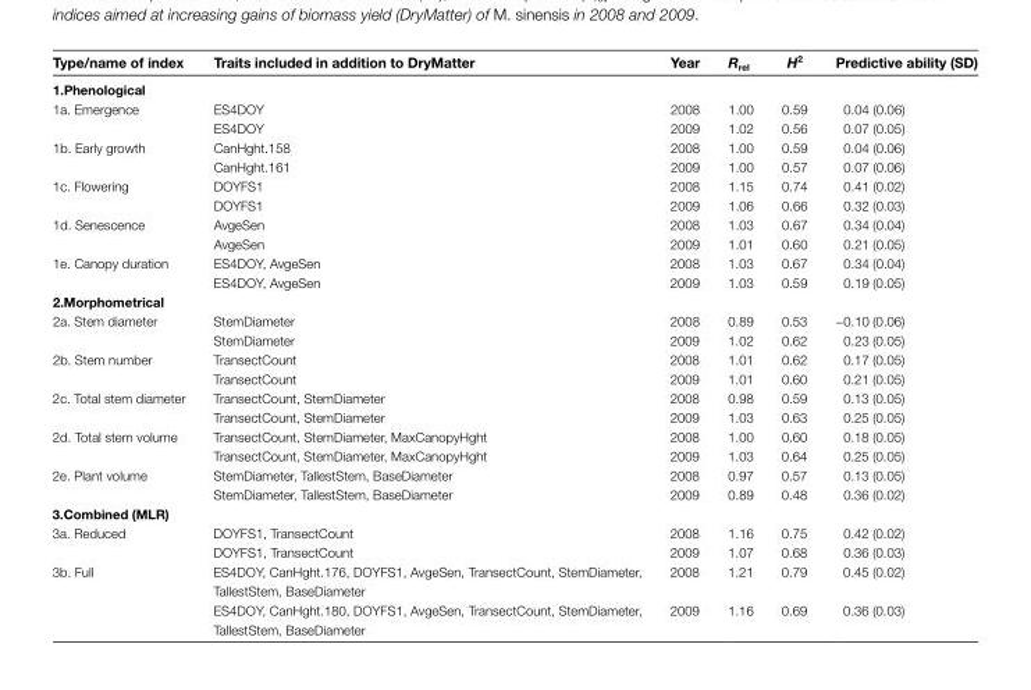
<table><thead><tr><td>Type/name of index</td><td>Traits included in addition to DryMatter</td><td>Year</td><td>R<sub>rel</sub></td><td>H<sup>2</sup></td><td>Predictive ability (SD)</td></tr></thead><tbody><tr><td colspan="6">1.Phenological</td></tr><tr><td rowspan="2">1a. Emergence</td><td>ES4DOY</td><td>2008</td><td>1.00</td><td>0.59</td><td>0.04 (0.06)</td></tr><tr><td>ES4DOY</td><td>2009</td><td>1.02</td><td>0.56</td><td>0.07 (0.05)</td></tr><tr><td rowspan="2">1b. Early growth</td><td>CanHght.158</td><td>2008</td><td>1.00</td><td>0.59</td><td>0.04 (0.06)</td></tr><tr><td>CanHght.161</td><td>2009</td><td>1.00</td><td>0.57</td><td>0.07 (0.06)</td></tr><tr><td rowspan="2">1c. Flowering</td><td>DOYFS1</td><td>2008</td><td>1.15</td><td>0.74</td><td>0.41 (0.02)</td></tr><tr><td>DOYFS1</td><td>2009</td><td>1.06</td><td>0.66</td><td>0.32 (0.03)</td></tr><tr><td rowspan="2">1d. Senescence</td><td>AvgeSen</td><td>2008</td><td>1.03</td><td>0.67</td><td>0.34 (0.04)</td></tr><tr><td>AvgeSen</td><td>2009</td><td>1.01</td><td>0.60</td><td>0.21 (0.05)</td></tr><tr><td rowspan="2">1e. Canopy duration</td><td>ES4DOY, AvgeSen</td><td>2008</td><td>1.03</td><td>0.67</td><td>0.34 (0.04)</td></tr><tr><td>ES4DOY, AvgeSen</td><td>2009</td><td>1.03</td><td>0.59</td><td>0.19 (0.05)</td></tr><tr><td colspan="6">2.Morphometrical</td></tr><tr><td rowspan="2">2a. Stem diameter</td><td>StemDiameter</td><td>2008</td><td>0.89</td><td>0.53</td><td>−0.10 (0.06)</td></tr><tr><td>StemDiameter</td><td>2009</td><td>1.02</td><td>0.62</td><td>0.23 (0.05)</td></tr><tr><td rowspan="2">2b. Stem number</td><td>TransectCount</td><td>2008</td><td>1.01</td><td>0.62</td><td>0.17 (0.05)</td></tr><tr><td>TransectCount</td><td>2009</td><td>1.01</td><td>0.60</td><td>0.21 (0.05)</td></tr><tr><td rowspan="2">2c. Total stem diameter</td><td>TransectCount, StemDiameter</td><td>2008</td><td>0.98</td><td>0.59</td><td>0.13 (0.05)</td></tr><tr><td>TransectCount, StemDiameter</td><td>2009</td><td>1.03</td><td>0.63</td><td>0.25 (0.05)</td></tr><tr><td rowspan="2">2d. Total stem volume</td><td>TransectCount, StemDiameter, MaxCanopyHght</td><td>2008</td><td>1.00</td><td>0.60</td><td>0.18 (0.05)</td></tr><tr><td>TransectCount, StemDiameter, MaxCanopyHght</td><td>2009</td><td>1.03</td><td>0.64</td><td>0.25 (0.05)</td></tr><tr><td rowspan="2">2e. Plant volume</td><td>StemDiameter, TallestStem, BaseDiameter</td><td>2008</td><td>0.97</td><td>0.57</td><td>0.13 (0.05)</td></tr><tr><td>StemDiameter, TallestStem, BaseDiameter</td><td>2009</td><td>0.89</td><td>0.48</td><td>0.36 (0.02)</td></tr><tr><td colspan="6">3.Combined (MLR)</td></tr><tr><td rowspan="2">3a. Reduced</td><td>DOYFS1, TransectCount</td><td>2008</td><td>1.16</td><td>0.75</td><td>0.42 (0.02)</td></tr><tr><td>DOYFS1, TransectCount</td><td>2009</td><td>1.07</td><td>0.68</td><td>0.36 (0.03)</td></tr><tr><td rowspan="2">3b. Full</td><td>ES4DOY, CanHght.176, DOYFS1, AvgeSen, TransectCount, StemDiameter, TallestStem, BaseDiameter</td><td>2008</td><td>1.21</td><td>0.79</td><td>0.45 (0.02)</td></tr><tr><td>ES4DOY, CanHght.180, DOYFS1, AvgeSen, TransectCount, StemDiameter, TallestStem, BaseDiameter</td><td>2009</td><td>1.16</td><td>0.69</td><td>0.36 (0.03)</td></tr></tbody></table>